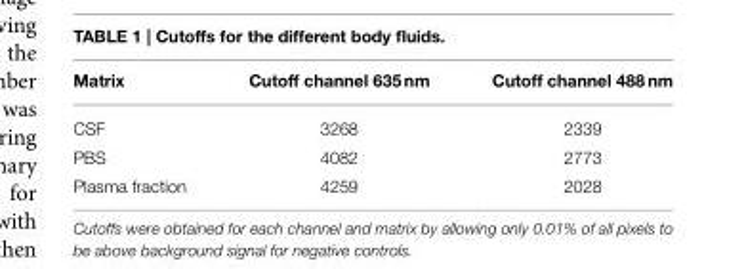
<table><thead><tr><td>Matrix</td><td>Cutoff channel 635 nm</td><td>Cutoff channel 488 nm</td></tr></thead><tbody><tr><td>CSF</td><td>3268</td><td>2339</td></tr><tr><td>PBS</td><td>4082</td><td>2773</td></tr><tr><td>Plasma fraction</td><td>4259</td><td>2028</td></tr></tbody></table>